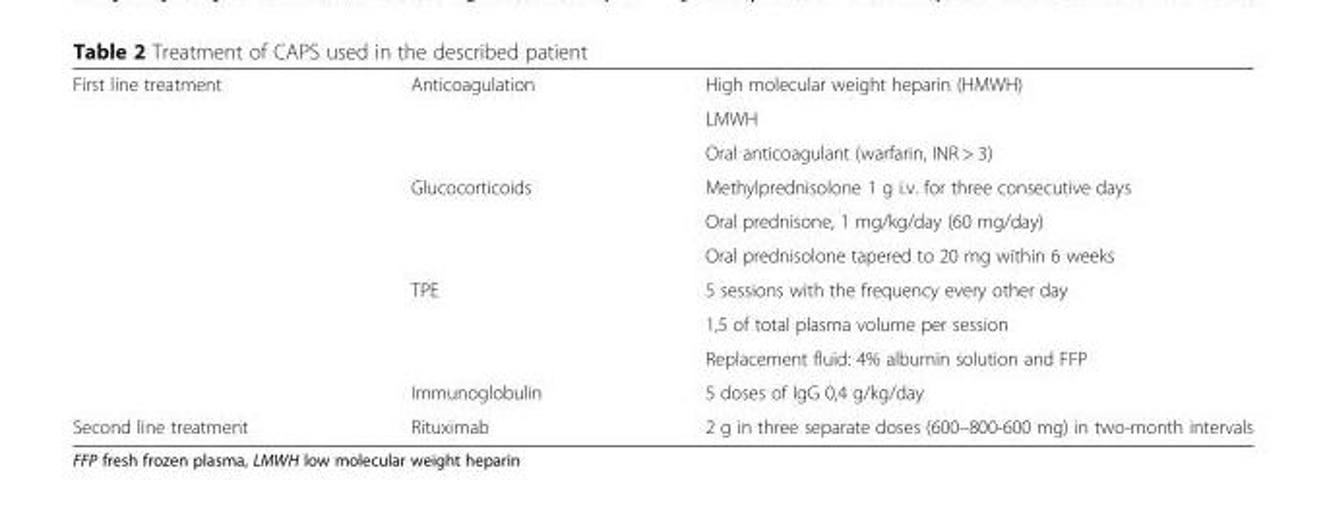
<table><tbody><tr><td rowspan="10">First line treatment</td><td rowspan="3">Anticoagulation</td><td>High molecular weight heparin (HMWH)</td></tr><tr><td>LMWH</td></tr><tr><td>Oral anticoagulant (warfarin, INR &gt; 3)</td></tr><tr><td rowspan="3">Glucocorticoids</td><td>Methylprednisolone 1 g i.v. for three consecutive days</td></tr><tr><td>Oral prednisone, 1 mg/kg/day (60 mg/day)</td></tr><tr><td>Oral prednisolone tapered to 20 mg within 6 weeks</td></tr><tr><td rowspan="3">TPE</td><td>5 sessions with the frequency every other day</td></tr><tr><td>1,5 of total plasma volume per session</td></tr><tr><td>Replacement fluid: 4% albumin solution and FFP</td></tr><tr><td>Immunoglobulin</td><td>5 doses of IgG 0,4 g/kg/day</td></tr><tr><td>Second line treatment</td><td>Rituximab</td><td>2 g in three separate doses (600–800-600 mg) in two-month intervals</td></tr></tbody></table>